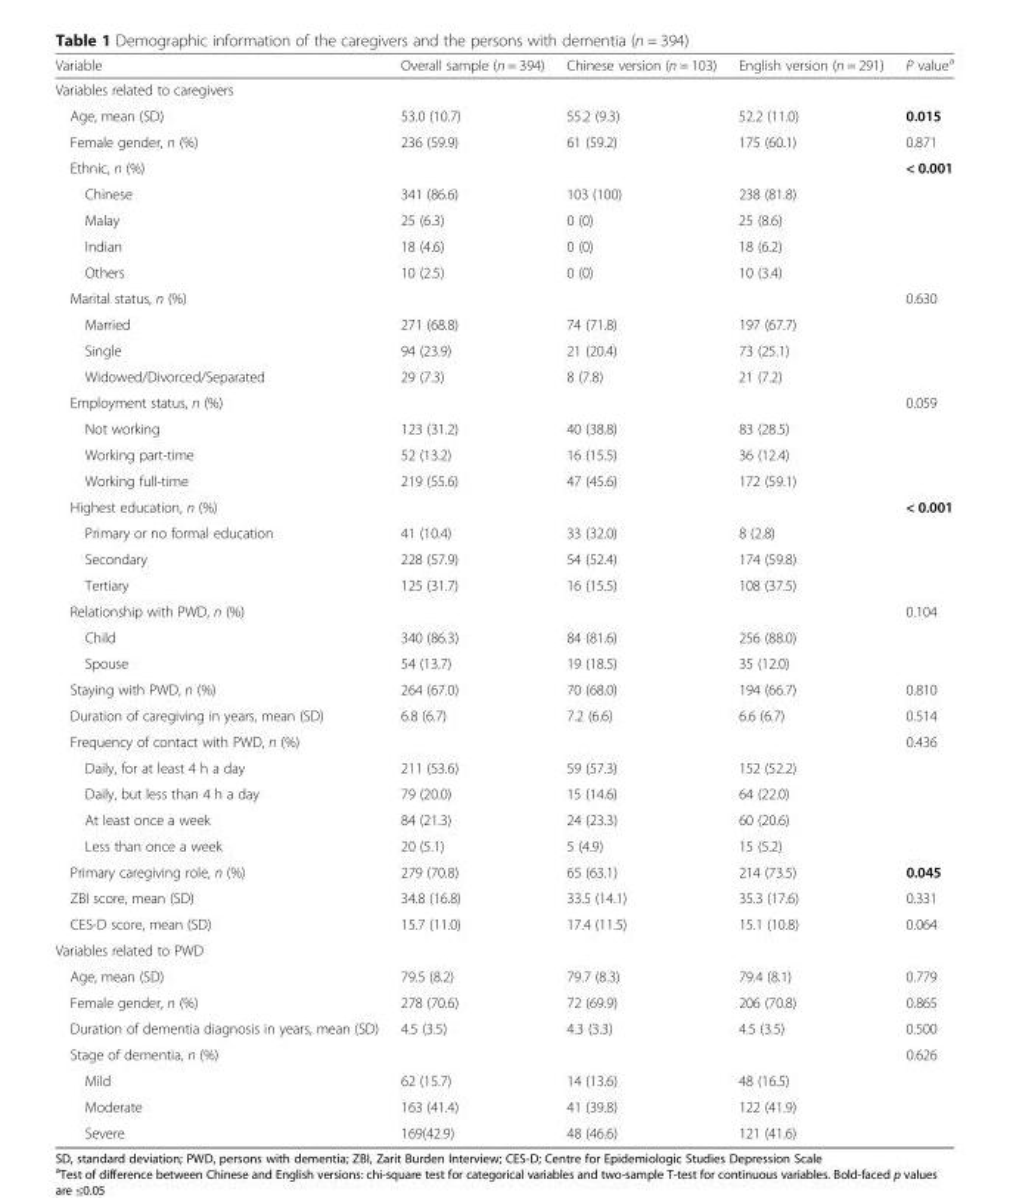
<table><thead><tr><td>Variable</td><td>Overall sample (n = 394)</td><td>Chinese version (n = 103)</td><td>English version (n = 291)</td><td>P value<sup>a</sup></td></tr></thead><tbody><tr><td colspan="5">Variables related to caregivers</td></tr><tr><td>Age, mean (SD)</td><td>53.0 (10.7)</td><td>55.2 (9.3)</td><td>52.2 (11.0)</td><td>0.015</td></tr><tr><td>Female gender, n (%)</td><td>236 (59.9)</td><td>61 (59.2)</td><td>175 (60.1)</td><td>0.871</td></tr><tr><td>Ethnic, n (%)</td><td></td><td></td><td></td><td>&lt; 0.001</td></tr><tr><td>Chinese</td><td>341 (86.6)</td><td>103 (100)</td><td>238 (81.8)</td><td></td></tr><tr><td>Malay</td><td>25 (6.3)</td><td>0 (0)</td><td>25 (8.6)</td><td></td></tr><tr><td>Indian</td><td>18 (4.6)</td><td>0 (0)</td><td>18 (6.2)</td><td></td></tr><tr><td>Others</td><td>10 (2.5)</td><td>0 (0)</td><td>10 (3.4)</td><td></td></tr><tr><td>Marital status, n (%)</td><td></td><td></td><td></td><td>0.630</td></tr><tr><td>Married</td><td>271 (68.8)</td><td>74 (71.8)</td><td>197 (67.7)</td><td></td></tr><tr><td>Single</td><td>94 (23.9)</td><td>21 (20.4)</td><td>73 (25.1)</td><td></td></tr><tr><td>Widowed/Divorced/Separated</td><td>29 (7.3)</td><td>8 (7.8)</td><td>21 (7.2)</td><td></td></tr><tr><td>Employment status, n (%)</td><td></td><td></td><td></td><td>0.059</td></tr><tr><td>Not working</td><td>123 (31.2)</td><td>40 (38.8)</td><td>83 (28.5)</td><td></td></tr><tr><td>Working part-time</td><td>52 (13.2)</td><td>16 (15.5)</td><td>36 (12.4)</td><td></td></tr><tr><td>Working full-time</td><td>219 (55.6)</td><td>47 (45.6)</td><td>172 (59.1)</td><td></td></tr><tr><td>Highest education, n (%)</td><td></td><td></td><td></td><td>&lt; 0.001</td></tr><tr><td>Primary or no formal education</td><td>41 (10.4)</td><td>33 (32.0)</td><td>8 (2.8)</td><td></td></tr><tr><td>Secondary</td><td>228 (57.9)</td><td>54 (52.4)</td><td>174 (59.8)</td><td></td></tr><tr><td>Tertiary</td><td>125 (31.7)</td><td>16 (15.5)</td><td>108 (37.5)</td><td></td></tr><tr><td>Relationship with PWD, n (%)</td><td></td><td></td><td></td><td>0.104</td></tr><tr><td>Child</td><td>340 (86.3)</td><td>84 (81.6)</td><td>256 (88.0)</td><td></td></tr><tr><td>Spouse</td><td>54 (13.7)</td><td>19 (18.5)</td><td>35 (12.0)</td><td></td></tr><tr><td>Staying with PWD, n (%)</td><td>264 (67.0)</td><td>70 (68.0)</td><td>194 (66.7)</td><td>0.810</td></tr><tr><td>Duration of caregiving in years, mean (SD)</td><td>6.8 (6.7)</td><td>7.2 (6.6)</td><td>6.6 (6.7)</td><td>0.514</td></tr><tr><td>Frequency of contact with PWD, n (%)</td><td></td><td></td><td></td><td>0.436</td></tr><tr><td>Daily, for at least 4 h a day</td><td>211 (53.6)</td><td>59 (57.3)</td><td>152 (52.2)</td><td></td></tr><tr><td>Daily, but less than 4 h a day</td><td>79 (20.0)</td><td>15 (14.6)</td><td>64 (22.0)</td><td></td></tr><tr><td>At least once a week</td><td>84 (21.3)</td><td>24 (23.3)</td><td>60 (20.6)</td><td></td></tr><tr><td>Less than once a week</td><td>20 (5.1)</td><td>5 (4.9)</td><td>15 (5.2)</td><td></td></tr><tr><td>Primary caregiving role, n (%)</td><td>279 (70.8)</td><td>65 (63.1)</td><td>214 (73.5)</td><td>0.045</td></tr><tr><td>ZBI score, mean (SD)</td><td>34.8 (16.8)</td><td>33.5 (14.1)</td><td>35.3 (17.6)</td><td>0.331</td></tr><tr><td>CES-D score, mean (SD)</td><td>15.7 (11.0)</td><td>17.4 (11.5)</td><td>15.1 (10.8)</td><td>0.064</td></tr><tr><td colspan="5">Variables related to PWD</td></tr><tr><td>Age, mean (SD)</td><td>79.5 (8.2)</td><td>79.7 (8.3)</td><td>79.4 (8.1)</td><td>0.779</td></tr><tr><td>Female gender, n (%)</td><td>278 (70.6)</td><td>72 (69.9)</td><td>206 (70.8)</td><td>0.865</td></tr><tr><td>Duration of dementia diagnosis in years, mean (SD)</td><td>4.5 (3.5)</td><td>4.3 (3.3)</td><td>4.5 (3.5)</td><td>0.500</td></tr><tr><td>Stage of dementia, n (%)</td><td></td><td></td><td></td><td>0.626</td></tr><tr><td>Mild</td><td>62 (15.7)</td><td>14 (13.6)</td><td>48 (16.5)</td><td></td></tr><tr><td>Moderate</td><td>163 (41.4)</td><td>41 (39.8)</td><td>122 (41.9)</td><td></td></tr><tr><td>Severe</td><td>169(42.9)</td><td>48 (46.6)</td><td>121 (41.6)</td><td></td></tr></tbody></table>